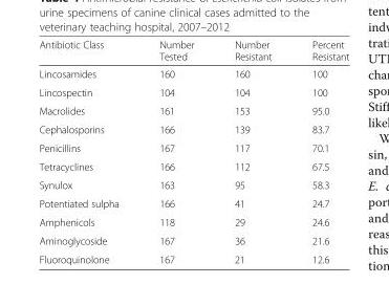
<table><thead><tr><td>Antibiotic Class</td><td>Number Tested</td><td>Number Resistant</td><td>Percent Resistant</td></tr></thead><tbody><tr><td>Lincosamides</td><td>160</td><td>160</td><td>100</td></tr><tr><td>Lincospectin</td><td>104</td><td>104</td><td>100</td></tr><tr><td>Macrolides</td><td>161</td><td>153</td><td>95.0</td></tr><tr><td>Cephalosporins</td><td>166</td><td>139</td><td>83.7</td></tr><tr><td>Penicillins</td><td>167</td><td>117</td><td>70.1</td></tr><tr><td>Tetracyclines</td><td>166</td><td>112</td><td>67.5</td></tr><tr><td>Synulox</td><td>163</td><td>95</td><td>58.3</td></tr><tr><td>Potentiated sulpha</td><td>166</td><td>41</td><td>24.7</td></tr><tr><td>Amphenicols</td><td>118</td><td>29</td><td>24.6</td></tr><tr><td>Aminoglycoside</td><td>167</td><td>36</td><td>21.6</td></tr><tr><td>Fluoroquinolone</td><td>167</td><td>21</td><td>12.6</td></tr></tbody></table>